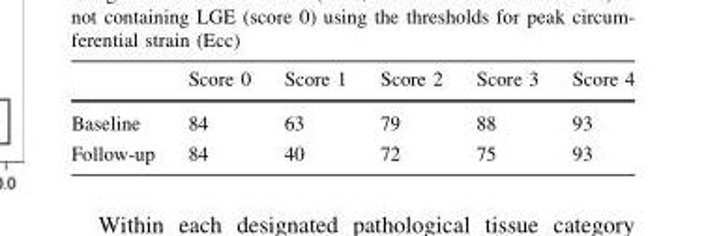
<table><thead><tr><td></td><td>Score 0</td><td>Score 1</td><td>Score 2</td><td>Score 3</td><td>Score 4</td></tr></thead><tbody><tr><td>Baseline</td><td>84</td><td>63</td><td>79</td><td>88</td><td>93</td></tr><tr><td>Follow-up</td><td>84</td><td>40</td><td>72</td><td>75</td><td>93</td></tr></tbody></table>